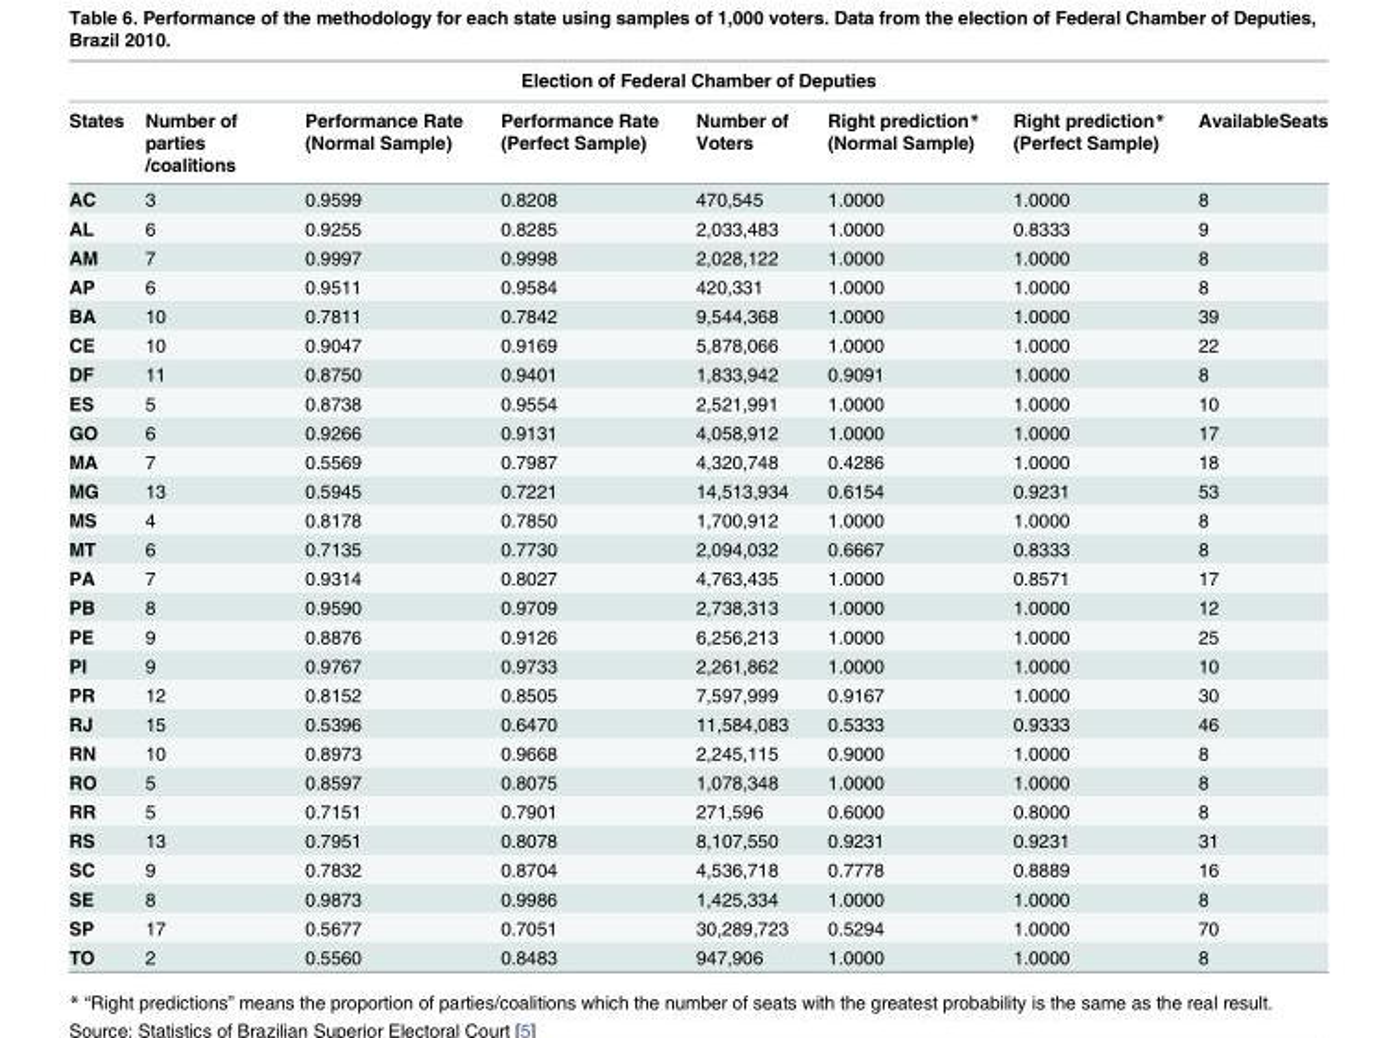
<table><thead><tr><td colspan="8">Election of Federal Chamber of Deputies</td></tr><tr><td>States</td><td>Number of parties /coalitions</td><td>Performance Rate (Normal Sample)</td><td>Performance Rate (Perfect Sample)</td><td>Number of Voters</td><td>Right prediction* (Normal Sample)</td><td>Right prediction* (Perfect Sample)</td><td>AvailableSeats</td></tr></thead><tbody><tr><td>AC</td><td>3</td><td>0.9599</td><td>0.8208</td><td>470,545</td><td>1.0000</td><td>1.0000</td><td>8</td></tr><tr><td>AL</td><td>6</td><td>0.9255</td><td>0.8285</td><td>2,033,483</td><td>1.0000</td><td>0.8333</td><td>9</td></tr><tr><td>AM</td><td>7</td><td>0.9997</td><td>0.9998</td><td>2,028,122</td><td>1.0000</td><td>1.0000</td><td>8</td></tr><tr><td>AP</td><td>6</td><td>0.9511</td><td>0.9584</td><td>420,331</td><td>1.0000</td><td>1.0000</td><td>8</td></tr><tr><td>BA</td><td>10</td><td>0.7811</td><td>0.7842</td><td>9,544,368</td><td>1.0000</td><td>1.0000</td><td>39</td></tr><tr><td>CE</td><td>10</td><td>0.9047</td><td>0.9169</td><td>5,878,066</td><td>1.0000</td><td>1.0000</td><td>22</td></tr><tr><td>DF</td><td>11</td><td>0.8750</td><td>0.9401</td><td>1,833,942</td><td>0.9091</td><td>1.0000</td><td>8</td></tr><tr><td>ES</td><td>5</td><td>0.8738</td><td>0.9554</td><td>2,521,991</td><td>1.0000</td><td>1.0000</td><td>10</td></tr><tr><td>GO</td><td>6</td><td>0.9266</td><td>0.9131</td><td>4,058,912</td><td>1.0000</td><td>1.0000</td><td>17</td></tr><tr><td>MA</td><td>7</td><td>0.5569</td><td>0.7987</td><td>4,320,748</td><td>0.4286</td><td>1.0000</td><td>18</td></tr><tr><td>MG</td><td>13</td><td>0.5945</td><td>0.7221</td><td>14,513,934</td><td>0.6154</td><td>0.9231</td><td>53</td></tr><tr><td>MS</td><td>4</td><td>0.8178</td><td>0.7850</td><td>1,700,912</td><td>1.0000</td><td>1.0000</td><td>8</td></tr><tr><td>MT</td><td>6</td><td>0.7135</td><td>0.7730</td><td>2,094,032</td><td>0.6667</td><td>0.8333</td><td>8</td></tr><tr><td>PA</td><td>7</td><td>0.9314</td><td>0.8027</td><td>4,763,435</td><td>1.0000</td><td>0.8571</td><td>17</td></tr><tr><td>PB</td><td>8</td><td>0.9590</td><td>0.9709</td><td>2,738,313</td><td>1.0000</td><td>1.0000</td><td>12</td></tr><tr><td>PE</td><td>9</td><td>0.8876</td><td>0.9126</td><td>6,256,213</td><td>1.0000</td><td>1.0000</td><td>25</td></tr><tr><td>PI</td><td>9</td><td>0.9767</td><td>0.9733</td><td>2,261,862</td><td>1.0000</td><td>1.0000</td><td>10</td></tr><tr><td>PR</td><td>12</td><td>0.8152</td><td>0.8505</td><td>7,597,999</td><td>0.9167</td><td>1.0000</td><td>30</td></tr><tr><td>RJ</td><td>15</td><td>0.5396</td><td>0.6470</td><td>11,584,083</td><td>0.5333</td><td>0.9333</td><td>46</td></tr><tr><td>RN</td><td>10</td><td>0.8973</td><td>0.9668</td><td>2,245,115</td><td>0.9000</td><td>1.0000</td><td>8</td></tr><tr><td>RO</td><td>5</td><td>0.8597</td><td>0.8075</td><td>1,078,348</td><td>1.0000</td><td>1.0000</td><td>8</td></tr><tr><td>RR</td><td>5</td><td>0.7151</td><td>0.7901</td><td>271,596</td><td>0.6000</td><td>0.8000</td><td>8</td></tr><tr><td>RS</td><td>13</td><td>0.7951</td><td>0.8078</td><td>8,107,550</td><td>0.9231</td><td>0.9231</td><td>31</td></tr><tr><td>SC</td><td>9</td><td>0.7832</td><td>0.8704</td><td>4,536,718</td><td>0.7778</td><td>0.8889</td><td>16</td></tr><tr><td>SE</td><td>8</td><td>0.9873</td><td>0.9986</td><td>1,425,334</td><td>1.0000</td><td>1.0000</td><td>8</td></tr><tr><td>SP</td><td>17</td><td>0.5677</td><td>0.7051</td><td>30,289,723</td><td>0.5294</td><td>1.0000</td><td>70</td></tr><tr><td>TO</td><td>2</td><td>0.5560</td><td>0.8483</td><td>947,906</td><td>1.0000</td><td>1.0000</td><td>8</td></tr></tbody></table>